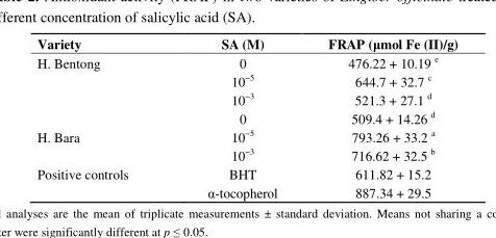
<table><thead><tr><td>Variety</td><td>SA (M)</td><td>FRAP (µmol Fe (II)/g)</td></tr></thead><tbody><tr><td rowspan="4">H. Bentong</td><td>0</td><td>476.22 + 10.19 <sup>e</sup></td></tr><tr><td>10<sup>−5</sup></td><td>644.7 + 32.7 <sup>c</sup></td></tr><tr><td>10<sup>−3</sup></td><td>521.3 + 27.1 <sup>d</sup></td></tr><tr><td>0</td><td>509.4 + 14.26 <sup>d</sup></td></tr><tr><td rowspan="2">H. Bara</td><td>10<sup>−5</sup></td><td>793.26 + 33.2 <sup>a</sup></td></tr><tr><td>10<sup>−3</sup></td><td>716.62 + 32.5 <sup>b</sup></td></tr><tr><td rowspan="2">Positive controls</td><td>BHT</td><td>611.82 + 15.2</td></tr><tr><td>α-tocopherol</td><td>887.34 + 29.5</td></tr></tbody></table>